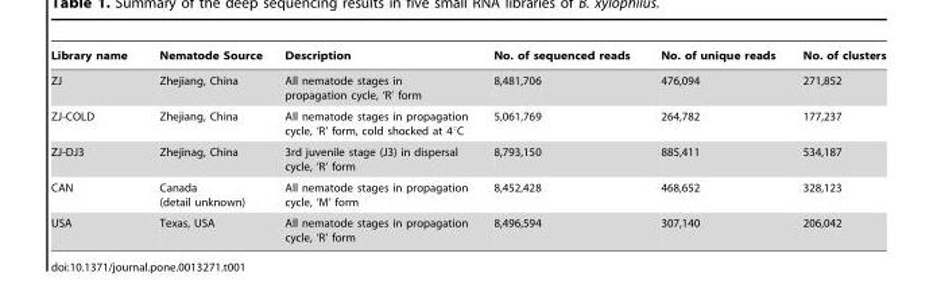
<table><thead><tr><td>Library name</td><td>Nematode Source</td><td>Description</td><td>No. of sequenced reads</td><td>No. of unique reads</td><td>No. of clusters</td></tr></thead><tbody><tr><td>ZJ</td><td>Zhejiang, China</td><td>All nematode stages in propagation cycle, ‘R’ form</td><td>8,481,706</td><td>476,094</td><td>271,852</td></tr><tr><td>ZJ-COLD</td><td>Zhejiang, China</td><td>All nematode stages in propagation cycle, ‘R’ form, cold shocked at 4°C</td><td>5,061,769</td><td>264,782</td><td>177,237</td></tr><tr><td>ZJ-DJ3</td><td>Zhejinag, China</td><td>3rd juvenile stage (J3) in dispersal cycle, ‘R’ form</td><td>8,793,150</td><td>885,411</td><td>534,187</td></tr><tr><td>CAN</td><td>Canada (detail unknown)</td><td>All nematode stages in propagation cycle, ‘M’ form</td><td>8,452,428</td><td>468,652</td><td>328,123</td></tr><tr><td>USA</td><td>Texas, USA</td><td>All nematode stages in propagation cycle, ‘R’ form</td><td>8,496,594</td><td>307,140</td><td>206,042</td></tr></tbody></table>